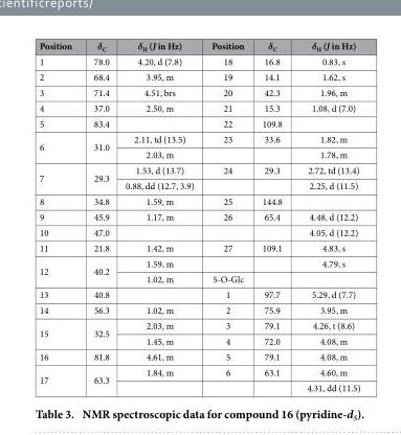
<table><thead><tr><td>Position</td><td>δ<sub>C</sub></td><td>δ<sub>H</sub> (J in Hz)</td><td>Position</td><td>δ<sub>C</sub></td><td>δ<sub>H</sub> (J in Hz)</td></tr></thead><tbody><tr><td>1</td><td>78.0</td><td>4.20, d (7.8)</td><td>18</td><td>16.8</td><td>0.83, s</td></tr><tr><td>2</td><td>68.4</td><td>3.95, m</td><td>19</td><td>14.1</td><td>1.62, s</td></tr><tr><td>3</td><td>71.4</td><td>4.51, brs</td><td>20</td><td>42.3</td><td>1.96, m</td></tr><tr><td>4</td><td>37.0</td><td>2.50, m</td><td>21</td><td>15.3</td><td>1.08, d (7.0)</td></tr><tr><td>5</td><td>83.4</td><td></td><td>22</td><td>109.8</td><td></td></tr><tr><td rowspan="2">6</td><td rowspan="2">31.0</td><td>2.11, td (13.5)</td><td>23</td><td>33.6</td><td>1.82, m</td></tr><tr><td>2.03, m</td><td></td><td></td><td>1.78, m</td></tr><tr><td rowspan="2">7</td><td rowspan="2">29.3</td><td>1.53, d (13.7)</td><td>24</td><td>29.3</td><td>2.72, td (13.4)</td></tr><tr><td>0.88, dd (12.7, 3.9)</td><td></td><td></td><td>2.25, d (11.5)</td></tr><tr><td>8</td><td>34.8</td><td>1.59, m</td><td>25</td><td>144.8</td><td></td></tr><tr><td>9</td><td>45.9</td><td>1.17, m</td><td>26</td><td>65.4</td><td>4.48, d (12.2)</td></tr><tr><td>10</td><td>47.0</td><td></td><td></td><td></td><td>4.05, d (12.2)</td></tr><tr><td>11</td><td>21.8</td><td>1.42, m</td><td>27</td><td>109.1</td><td>4.83, s</td></tr><tr><td rowspan="2">12</td><td rowspan="2">40.2</td><td>1.59, m</td><td></td><td></td><td>4.79, s</td></tr><tr><td>1.02, m</td><td>5-O-Glc</td><td></td><td></td></tr><tr><td>13</td><td>40.8</td><td></td><td>1</td><td>97.7</td><td>5.29, d (7.7)</td></tr><tr><td>14</td><td>56.3</td><td>1.02, m</td><td>2</td><td>75.9</td><td>3.95, m</td></tr><tr><td rowspan="2">15</td><td rowspan="2">32.5</td><td>2.03, m</td><td>3</td><td>79.1</td><td>4.26, t (8.6)</td></tr><tr><td>1.45, m</td><td>4</td><td>72.0</td><td>4.08, m</td></tr><tr><td>16</td><td>81.8</td><td>4.61, m</td><td>5</td><td>79.1</td><td>4.08, m</td></tr><tr><td rowspan="2">17</td><td rowspan="2">63.3</td><td>1.84, m</td><td>6</td><td>63.1</td><td>4.60, m</td></tr><tr><td></td><td></td><td></td><td>4.31, dd (11.5)</td></tr></tbody></table>